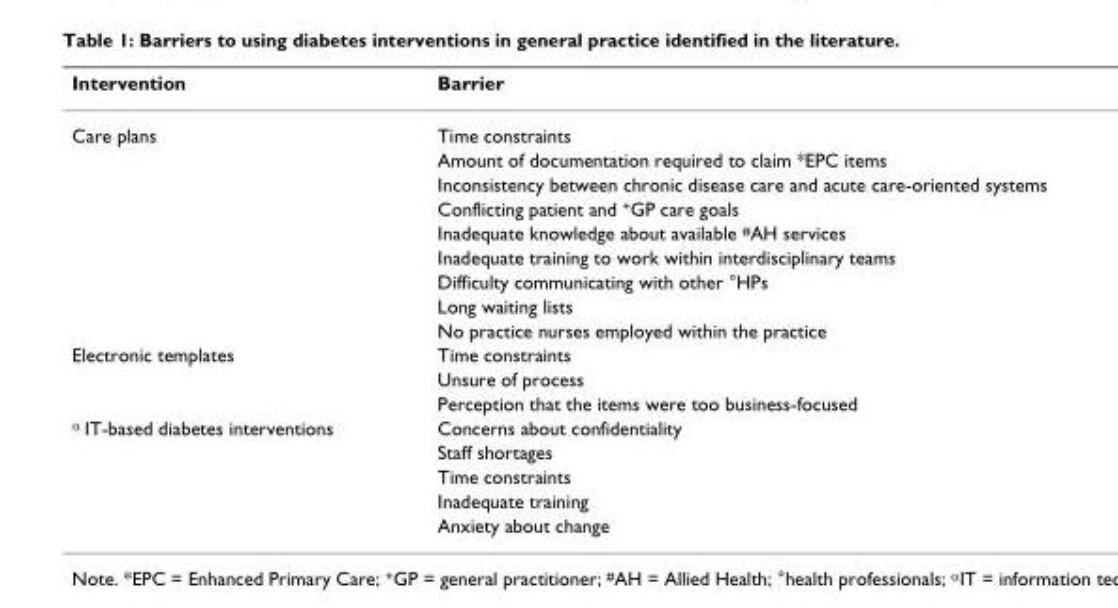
<table><thead><tr><td>Intervention</td><td>Barrier</td></tr></thead><tbody><tr><td rowspan="9">Care plans</td><td>Time constraints</td></tr><tr><td>Amount of documentation required to claim *EPC items</td></tr><tr><td>Inconsistency between chronic disease care and acute care-oriented systems</td></tr><tr><td>Conflicting patient and <sup>+</sup>GP care goals</td></tr><tr><td>Inadequate knowledge about available <sup>#</sup>AH services</td></tr><tr><td>Inadequate training to work within interdisciplinary teams</td></tr><tr><td>Difficulty communicating with other °HPs</td></tr><tr><td>Long waiting lists</td></tr><tr><td>No practice nurses employed within the practice</td></tr><tr><td rowspan="3">Electronic templates</td><td>Time constraints</td></tr><tr><td>Unsure of process</td></tr><tr><td>Perception that the items were too business-focused</td></tr><tr><td rowspan="5"><sup>α</sup> IT-based diabetes interventions</td><td>Concerns about confidentiality</td></tr><tr><td>Staff shortages</td></tr><tr><td>Time constraints</td></tr><tr><td>Inadequate training</td></tr><tr><td>Anxiety about change</td></tr></tbody></table>